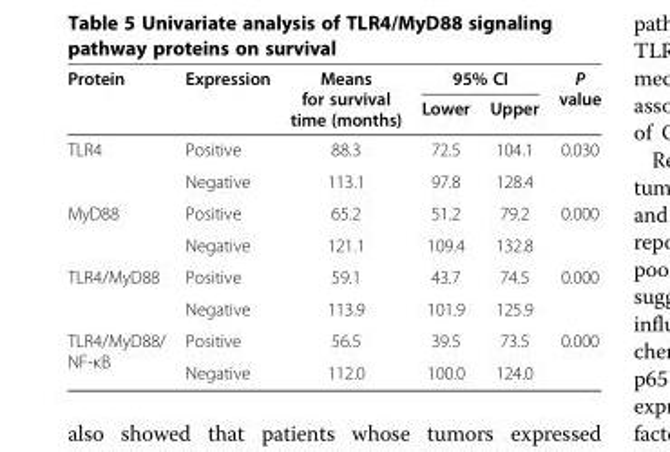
<table><thead><tr><td rowspan="2">Protein</td><td rowspan="2">Expression</td><td rowspan="2">Means for survival time (months)</td><td colspan="2">95% CI</td><td rowspan="2">P value</td></tr><tr><td>Lower</td><td>Upper</td></tr></thead><tbody><tr><td rowspan="2">TLR4</td><td>Positive</td><td>88.3</td><td>72.5</td><td>104.1</td><td rowspan="2">0.030</td></tr><tr><td>Negative</td><td>113.1</td><td>97.8</td><td>128.4</td></tr><tr><td rowspan="2">MyD88</td><td>Positive</td><td>65.2</td><td>51.2</td><td>79.2</td><td rowspan="2">0.000</td></tr><tr><td>Negative</td><td>121.1</td><td>109.4</td><td>132.8</td></tr><tr><td rowspan="2">TLR4/MyD88</td><td>Positive</td><td>59.1</td><td>43.7</td><td>74.5</td><td rowspan="2">0.000</td></tr><tr><td>Negative</td><td>113.9</td><td>101.9</td><td>125.9</td></tr><tr><td rowspan="2">TLR4/MyD88/ NF-κB</td><td>Positive</td><td>56.5</td><td>39.5</td><td>73.5</td><td rowspan="2">0.000</td></tr><tr><td>Negative</td><td>112.0</td><td>100.0</td><td>124.0</td></tr></tbody></table>